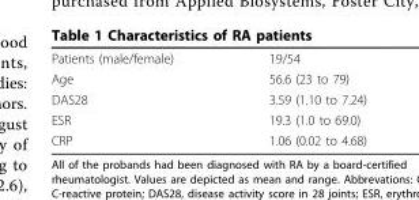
<table><tbody><tr><td>Patients (male/female)</td><td>19/54</td></tr><tr><td>Age</td><td>56.6 (23 to 79)</td></tr><tr><td>DAS28</td><td>3.59 (1.10 to 7.24)</td></tr><tr><td>ESR</td><td>19.3 (1.0 to 69.0)</td></tr><tr><td>CRP</td><td>1.06 (0.02 to 4.68)</td></tr></tbody></table>